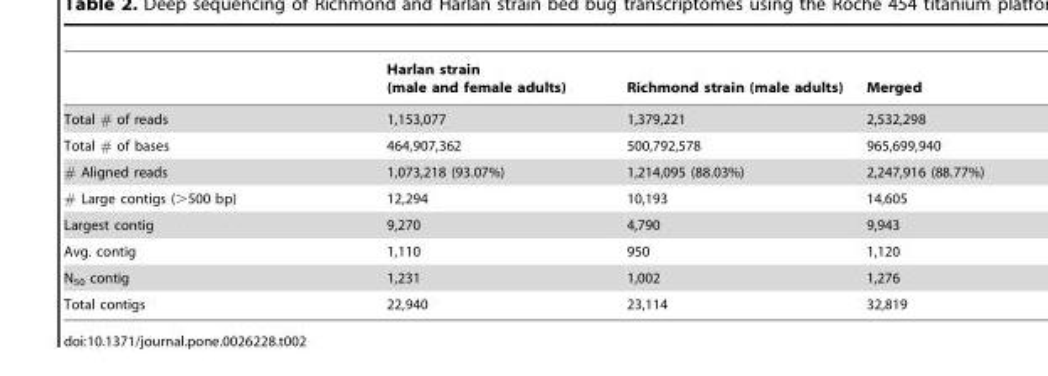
<table><thead><tr><td></td><td>Harlan strain (male and female adults)</td><td>Richmond strain (male adults)</td><td>Merged</td></tr></thead><tbody><tr><td>Total # of reads</td><td>1,153,077</td><td>1,379,221</td><td>2,532,298</td></tr><tr><td>Total # of bases</td><td>464,907,362</td><td>500,792,578</td><td>965,699,940</td></tr><tr><td># Aligned reads</td><td>1,073,218 (93.07%)</td><td>1,214,095 (88.03%)</td><td>2,247,916 (88.77%)</td></tr><tr><td># Large contigs (&gt;500 bp)</td><td>12,294</td><td>10,193</td><td>14,605</td></tr><tr><td>Largest contig</td><td>9,270</td><td>4,790</td><td>9,943</td></tr><tr><td>Avg. contig</td><td>1,110</td><td>950</td><td>1,120</td></tr><tr><td>N<sub>50</sub> contig</td><td>1,231</td><td>1,002</td><td>1,276</td></tr><tr><td>Total contigs</td><td>22,940</td><td>23,114</td><td>32,819</td></tr></tbody></table>